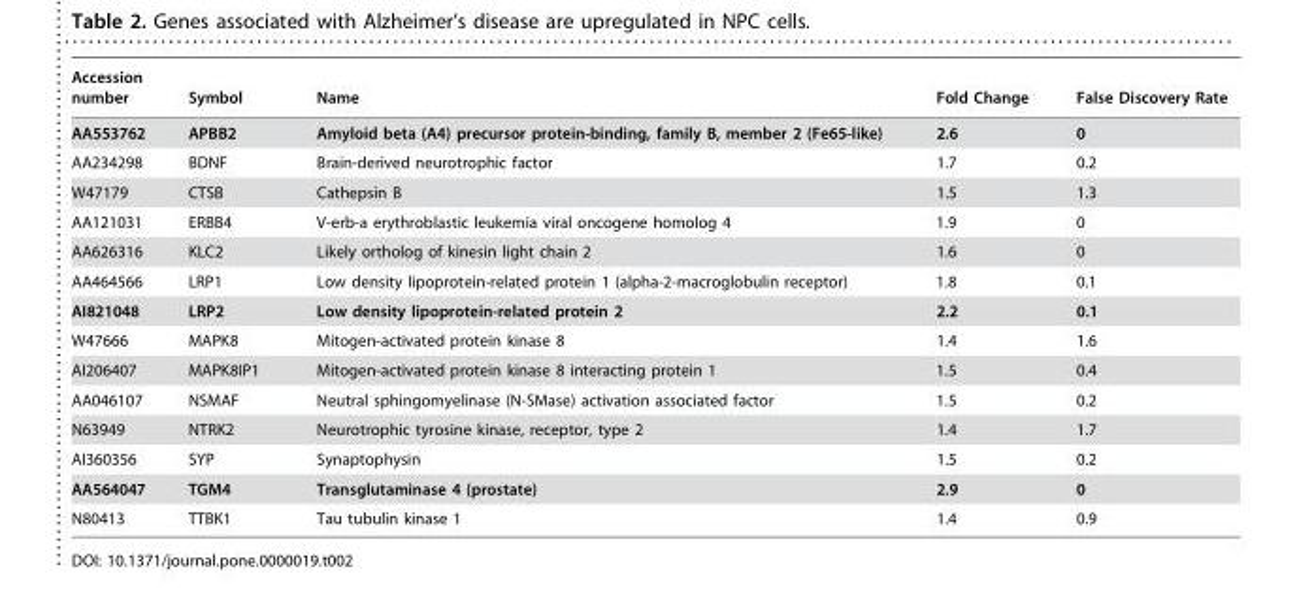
<table><thead><tr><td>Accession number</td><td>Symbol</td><td>Name</td><td>Fold Change</td><td>False Discovery Rate</td></tr></thead><tbody><tr><td>AA553762</td><td>APBB2</td><td>Amyloid beta (A4) precursor protein-binding, family B, member 2 (Fe65-like)</td><td>2.6</td><td>0</td></tr><tr><td>AA234298</td><td>BDNF</td><td>Brain-derived neurotrophic factor</td><td>1.7</td><td>0.2</td></tr><tr><td>W47179</td><td>CTSB</td><td>Cathepsin B</td><td>1.5</td><td>1.3</td></tr><tr><td>AA121031</td><td>ERBB4</td><td>V-erb-a erythroblastic leukemia viral oncogene homolog 4</td><td>1.9</td><td>0</td></tr><tr><td>AA626316</td><td>KLC2</td><td>Likely ortholog of kinesin light chain 2</td><td>1.6</td><td>0</td></tr><tr><td>AA464566</td><td>LRP1</td><td>Low density lipoprotein-related protein 1 (alpha-2-macroglobulin receptor)</td><td>1.8</td><td>0.1</td></tr><tr><td>AI821048</td><td>LRP2</td><td>Low density lipoprotein-related protein 2</td><td>2.2</td><td>0.1</td></tr><tr><td>W47666</td><td>MAPK8</td><td>Mitogen-activated protein kinase 8</td><td>1.4</td><td>1.6</td></tr><tr><td>AI206407</td><td>MAPK8IP1</td><td>Mitogen-activated protein kinase 8 interacting protein 1</td><td>1.5</td><td>0.4</td></tr><tr><td>AA046107</td><td>NSMAF</td><td>Neutral sphingomyelinase (N-SMase) activation associated factor</td><td>1.5</td><td>0.2</td></tr><tr><td>N63949</td><td>NTRK2</td><td>Neurotrophic tyrosine kinase, receptor, type 2</td><td>1.4</td><td>1.7</td></tr><tr><td>AI360356</td><td>SYP</td><td>Synaptophysin</td><td>1.5</td><td>0.2</td></tr><tr><td>AA564047</td><td>TGM4</td><td>Transglutaminase 4 (prostate)</td><td>2.9</td><td>0</td></tr><tr><td>N80413</td><td>TTBK1</td><td>Tau tubulin kinase 1</td><td>1.4</td><td>0.9</td></tr></tbody></table>